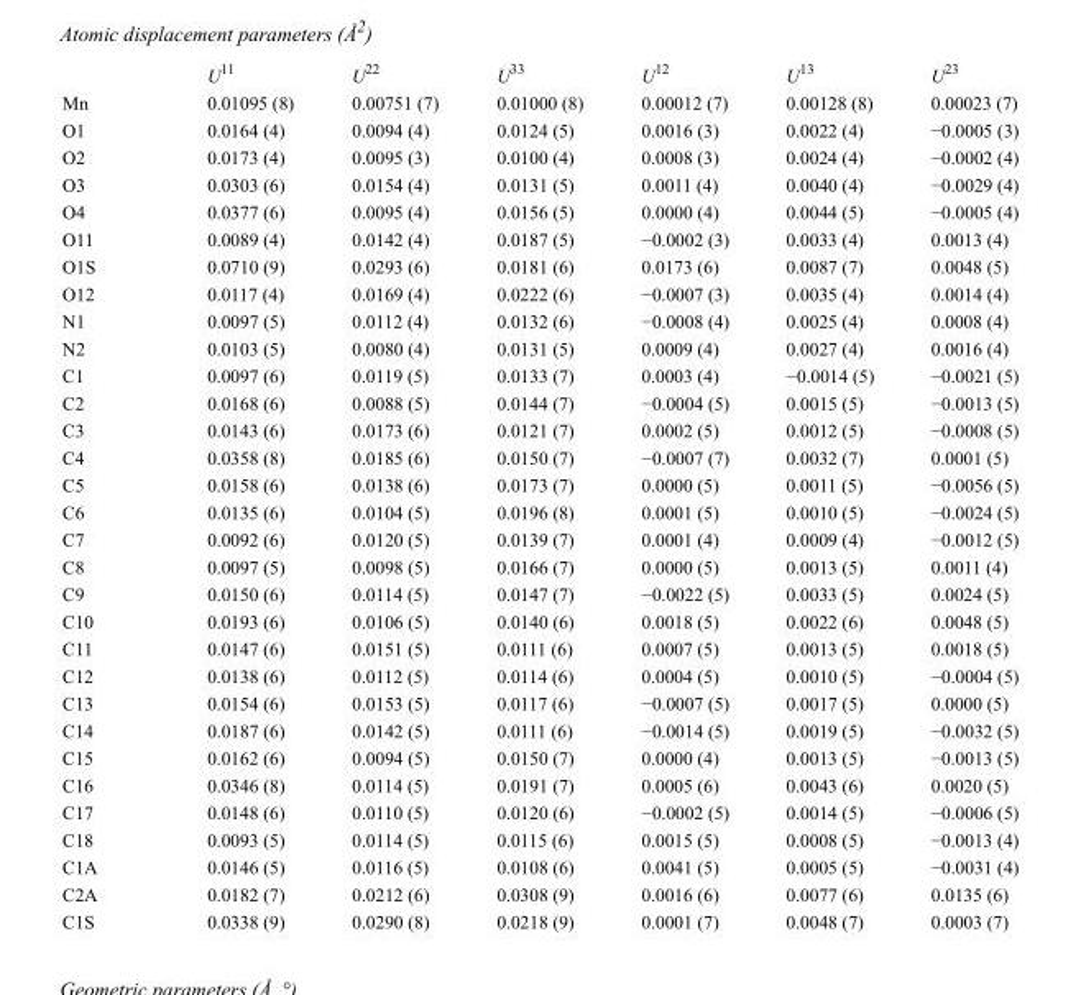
<table><thead><tr><td></td><td>U<sup>11</sup></td><td>U<sup>22</sup></td><td>U<sup>33</sup></td><td>U<sup>12</sup></td><td>U<sup>13</sup></td><td>U<sup>23</sup></td></tr></thead><tbody><tr><td>Mn</td><td>0.01095 (8)</td><td>0.00751 (7)</td><td>0.01000 (8)</td><td>0.00012 (7)</td><td>0.00128 (8)</td><td>0.00023 (7)</td></tr><tr><td>O1</td><td>0.0164 (4)</td><td>0.0094 (4)</td><td>0.0124 (5)</td><td>0.0016 (3)</td><td>0.0022 (4)</td><td>−0.0005 (3)</td></tr><tr><td>O2</td><td>0.0173 (4)</td><td>0.0095 (3)</td><td>0.0100 (4)</td><td>0.0008 (3)</td><td>0.0024 (4)</td><td>−0.0002 (4)</td></tr><tr><td>O3</td><td>0.0303 (6)</td><td>0.0154 (4)</td><td>0.0131 (5)</td><td>0.0011 (4)</td><td>0.0040 (4)</td><td>−0.0029 (4)</td></tr><tr><td>O4</td><td>0.0377 (6)</td><td>0.0095 (4)</td><td>0.0156 (5)</td><td>0.0000 (4)</td><td>0.0044 (5)</td><td>−0.0005 (4)</td></tr><tr><td>O11</td><td>0.0089 (4)</td><td>0.0142 (4)</td><td>0.0187 (5)</td><td>−0.0002 (3)</td><td>0.0033 (4)</td><td>0.0013 (4)</td></tr><tr><td>O1S</td><td>0.0710 (9)</td><td>0.0293 (6)</td><td>0.0181 (6)</td><td>0.0173 (6)</td><td>0.0087 (7)</td><td>0.0048 (5)</td></tr><tr><td>O12</td><td>0.0117 (4)</td><td>0.0169 (4)</td><td>0.0222 (6)</td><td>−0.0007 (3)</td><td>0.0035 (4)</td><td>0.0014 (4)</td></tr><tr><td>N1</td><td>0.0097 (5)</td><td>0.0112 (4)</td><td>0.0132 (6)</td><td>−0.0008 (4)</td><td>0.0025 (4)</td><td>0.0008 (4)</td></tr><tr><td>N2</td><td>0.0103 (5)</td><td>0.0080 (4)</td><td>0.0131 (5)</td><td>0.0009 (4)</td><td>0.0027 (4)</td><td>0.0016 (4)</td></tr><tr><td>C1</td><td>0.0097 (6)</td><td>0.0119 (5)</td><td>0.0133 (7)</td><td>0.0003 (4)</td><td>−0.0014 (5)</td><td>−0.0021 (5)</td></tr><tr><td>C2</td><td>0.0168 (6)</td><td>0.0088 (5)</td><td>0.0144 (7)</td><td>−0.0004 (5)</td><td>0.0015 (5)</td><td>−0.0013 (5)</td></tr><tr><td>C3</td><td>0.0143 (6)</td><td>0.0173 (6)</td><td>0.0121 (7)</td><td>0.0002 (5)</td><td>0.0012 (5)</td><td>−0.0008 (5)</td></tr><tr><td>C4</td><td>0.0358 (8)</td><td>0.0185 (6)</td><td>0.0150 (7)</td><td>−0.0007 (7)</td><td>0.0032 (7)</td><td>0.0001 (5)</td></tr><tr><td>C5</td><td>0.0158 (6)</td><td>0.0138 (6)</td><td>0.0173 (7)</td><td>0.0000 (5)</td><td>0.0011 (5)</td><td>−0.0056 (5)</td></tr><tr><td>C6</td><td>0.0135 (6)</td><td>0.0104 (5)</td><td>0.0196 (8)</td><td>0.0001 (5)</td><td>0.0010 (5)</td><td>−0.0024 (5)</td></tr><tr><td>C7</td><td>0.0092 (6)</td><td>0.0120 (5)</td><td>0.0139 (7)</td><td>0.0001 (4)</td><td>0.0009 (4)</td><td>−0.0012 (5)</td></tr><tr><td>C8</td><td>0.0097 (5)</td><td>0.0098 (5)</td><td>0.0166 (7)</td><td>0.0000 (5)</td><td>0.0013 (5)</td><td>0.0011 (4)</td></tr><tr><td>C9</td><td>0.0150 (6)</td><td>0.0114 (5)</td><td>0.0147 (7)</td><td>−0.0022 (5)</td><td>0.0033 (5)</td><td>0.0024 (5)</td></tr><tr><td>C10</td><td>0.0193 (6)</td><td>0.0106 (5)</td><td>0.0140 (6)</td><td>0.0018 (5)</td><td>0.0022 (6)</td><td>0.0048 (5)</td></tr><tr><td>C11</td><td>0.0147 (6)</td><td>0.0151 (5)</td><td>0.0111 (6)</td><td>0.0007 (5)</td><td>0.0013 (5)</td><td>0.0018 (5)</td></tr><tr><td>C12</td><td>0.0138 (6)</td><td>0.0112 (5)</td><td>0.0114 (6)</td><td>0.0004 (5)</td><td>0.0010 (5)</td><td>−0.0004 (5)</td></tr><tr><td>C13</td><td>0.0154 (6)</td><td>0.0153 (5)</td><td>0.0117 (6)</td><td>−0.0007 (5)</td><td>0.0017 (5)</td><td>0.0000 (5)</td></tr><tr><td>C14</td><td>0.0187 (6)</td><td>0.0142 (5)</td><td>0.0111 (6)</td><td>−0.0014 (5)</td><td>0.0019 (5)</td><td>−0.0032 (5)</td></tr><tr><td>C15</td><td>0.0162 (6)</td><td>0.0094 (5)</td><td>0.0150 (7)</td><td>0.0000 (4)</td><td>0.0013 (5)</td><td>−0.0013 (5)</td></tr><tr><td>C16</td><td>0.0346 (8)</td><td>0.0114 (5)</td><td>0.0191 (7)</td><td>0.0005 (6)</td><td>0.0043 (6)</td><td>0.0020 (5)</td></tr><tr><td>C17</td><td>0.0148 (6)</td><td>0.0110 (5)</td><td>0.0120 (6)</td><td>−0.0002 (5)</td><td>0.0014 (5)</td><td>−0.0006 (5)</td></tr><tr><td>C18</td><td>0.0093 (5)</td><td>0.0114 (5)</td><td>0.0115 (6)</td><td>0.0015 (5)</td><td>0.0008 (5)</td><td>−0.0013 (4)</td></tr><tr><td>C1A</td><td>0.0146 (5)</td><td>0.0116 (5)</td><td>0.0108 (6)</td><td>0.0041 (5)</td><td>0.0005 (5)</td><td>−0.0031 (4)</td></tr><tr><td>C2A</td><td>0.0182 (7)</td><td>0.0212 (6)</td><td>0.0308 (9)</td><td>0.0016 (6)</td><td>0.0077 (6)</td><td>0.0135 (6)</td></tr><tr><td>C1S</td><td>0.0338 (9)</td><td>0.0290 (8)</td><td>0.0218 (9)</td><td>0.0001 (7)</td><td>0.0048 (7)</td><td>0.0003 (7)</td></tr></tbody></table>